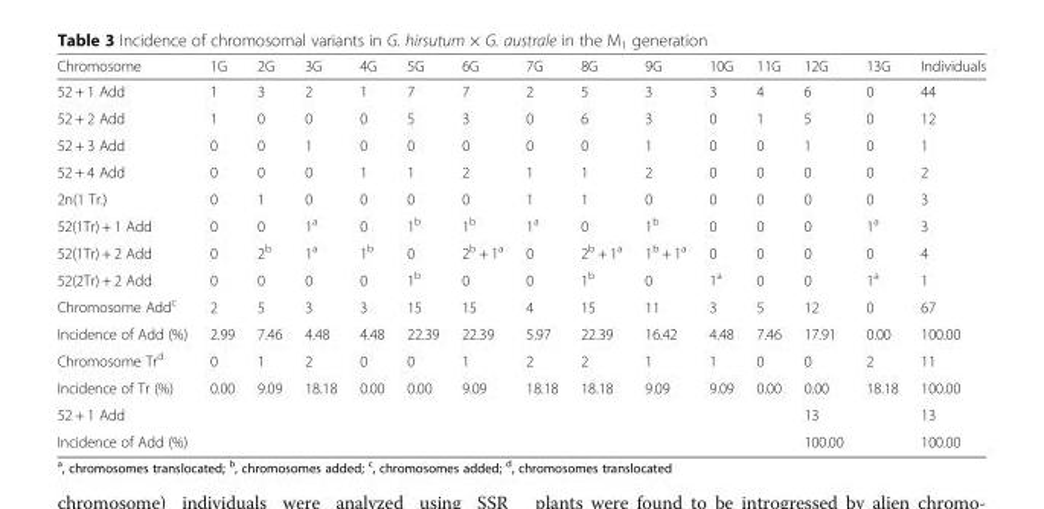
<table><thead><tr><td>Chromosome</td><td>1G</td><td>2G</td><td>3G</td><td>4G</td><td>5G</td><td>6G</td><td>7G</td><td>8G</td><td>9G</td><td>10G</td><td>11G</td><td>12G</td><td>13G</td><td>Individuals</td></tr></thead><tbody><tr><td>52 + 1 Add</td><td>1</td><td>3</td><td>2</td><td>1</td><td>7</td><td>7</td><td>2</td><td>5</td><td>3</td><td>3</td><td>4</td><td>6</td><td>0</td><td>44</td></tr><tr><td>52 + 2 Add</td><td>1</td><td>0</td><td>0</td><td>0</td><td>5</td><td>3</td><td>0</td><td>6</td><td>3</td><td>0</td><td>1</td><td>5</td><td>0</td><td>12</td></tr><tr><td>52 + 3 Add</td><td>0</td><td>0</td><td>1</td><td>0</td><td>0</td><td>0</td><td>0</td><td>0</td><td>1</td><td>0</td><td>0</td><td>1</td><td>0</td><td>1</td></tr><tr><td>52 + 4 Add</td><td>0</td><td>0</td><td>0</td><td>1</td><td>1</td><td>2</td><td>1</td><td>1</td><td>2</td><td>0</td><td>0</td><td>0</td><td>0</td><td>2</td></tr><tr><td>2n(1 Tr.)</td><td>0</td><td>1</td><td>0</td><td>0</td><td>0</td><td>0</td><td>1</td><td>1</td><td>0</td><td>0</td><td>0</td><td>0</td><td>0</td><td>3</td></tr><tr><td>52(1Tr) + 1 Add</td><td>0</td><td>0</td><td>1<sup>a</sup></td><td>0</td><td>1<sup>b</sup></td><td>1<sup>b</sup></td><td>1<sup>a</sup></td><td>0</td><td>1<sup>b</sup></td><td>0</td><td>0</td><td>0</td><td>1<sup>a</sup></td><td>3</td></tr><tr><td>52(1Tr) + 2 Add</td><td>0</td><td>2<sup>b</sup></td><td>1<sup>a</sup></td><td>1<sup>b</sup></td><td>0</td><td>2<sup>b</sup> + 1<sup>a</sup></td><td>0</td><td>2<sup>b</sup> + 1<sup>a</sup></td><td>1<sup>b</sup> + 1<sup>a</sup></td><td>0</td><td>0</td><td>0</td><td>0</td><td>4</td></tr><tr><td>52(2Tr) + 2 Add</td><td>0</td><td>0</td><td>0</td><td>0</td><td>1<sup>b</sup></td><td>0</td><td>0</td><td>1<sup>b</sup></td><td>0</td><td>1<sup>a</sup></td><td>0</td><td>0</td><td>1<sup>a</sup></td><td>1</td></tr><tr><td>Chromosome Add<sup>c</sup></td><td>2</td><td>5</td><td>3</td><td>3</td><td>15</td><td>15</td><td>4</td><td>15</td><td>11</td><td>3</td><td>5</td><td>12</td><td>0</td><td>67</td></tr><tr><td>Incidence of Add (%)</td><td>2.99</td><td>7.46</td><td>4.48</td><td>4.48</td><td>22.39</td><td>22.39</td><td>5.97</td><td>22.39</td><td>16.42</td><td>4.48</td><td>7.46</td><td>17.91</td><td>0.00</td><td>100.00</td></tr><tr><td>Chromosome Tr<sup>d</sup></td><td>0</td><td>1</td><td>2</td><td>0</td><td>0</td><td>1</td><td>2</td><td>2</td><td>1</td><td>1</td><td>0</td><td>0</td><td>2</td><td>11</td></tr><tr><td>Incidence of Tr (%)</td><td>0.00</td><td>9.09</td><td>18.18</td><td>0.00</td><td>0.00</td><td>9.09</td><td>18.18</td><td>18.18</td><td>9.09</td><td>9.09</td><td>0.00</td><td>0.00</td><td>18.18</td><td>100.00</td></tr><tr><td>52 + 1 Add</td><td></td><td></td><td></td><td></td><td></td><td></td><td></td><td></td><td></td><td></td><td></td><td>13</td><td></td><td>13</td></tr><tr><td>Incidence of Add (%)</td><td></td><td></td><td></td><td></td><td></td><td></td><td></td><td></td><td></td><td></td><td></td><td>100.00</td><td></td><td>100.00</td></tr></tbody></table>